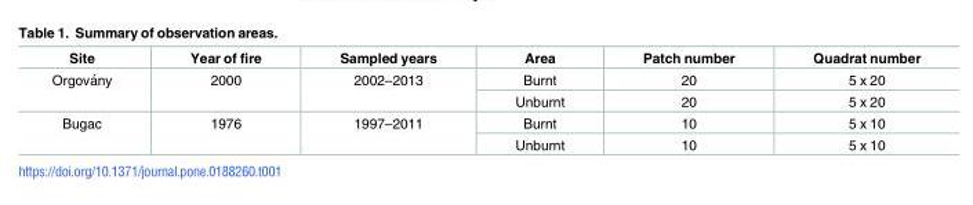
<table><thead><tr><td>Site</td><td>Year of fire</td><td>Sampled years</td><td>Area</td><td>Patch number</td><td>Quadrat number</td></tr></thead><tbody><tr><td rowspan="2">Orgova´ny</td><td rowspan="2">2000</td><td rowspan="2">2002–2013</td><td>Burnt</td><td>20</td><td>5 x 20</td></tr><tr><td>Unburnt</td><td>20</td><td>5 x 20</td></tr><tr><td rowspan="2">Bugac</td><td rowspan="2">1976</td><td rowspan="2">1997–2011</td><td>Burnt</td><td>10</td><td>5 x 10</td></tr><tr><td>Unburnt</td><td>10</td><td>5 x 10</td></tr></tbody></table>